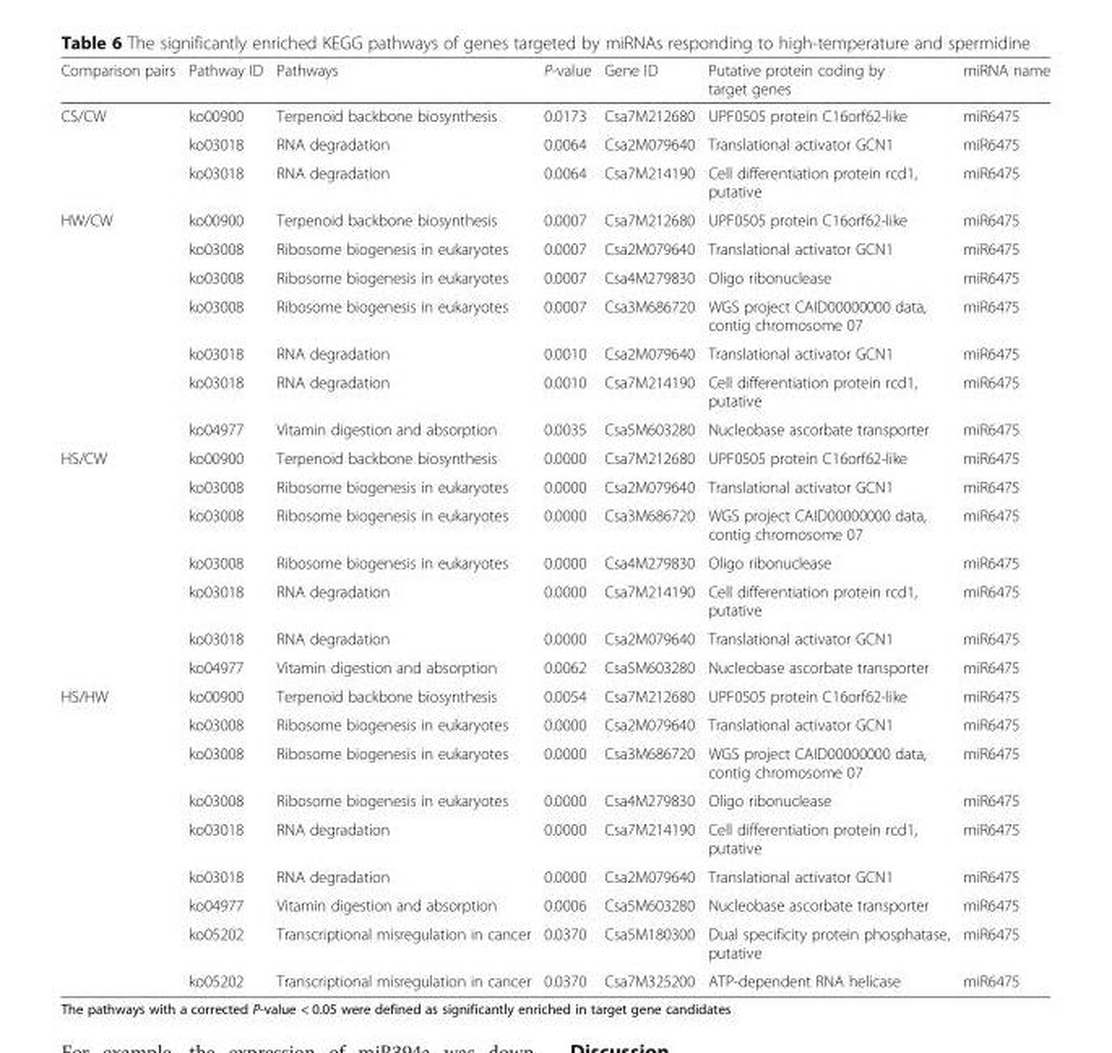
<table><thead><tr><td>Comparison pairs</td><td>Pathway ID</td><td>Pathways</td><td>P-value</td><td>Gene ID</td><td>Putative protein coding by target genes</td><td>miRNA name</td></tr></thead><tbody><tr><td rowspan="3">CS/CW</td><td>ko00900</td><td>Terpenoid backbone biosynthesis</td><td>0.0173</td><td>Csa7M212680</td><td>UPF0505 protein C16orf62-like</td><td>miR6475</td></tr><tr><td>ko03018</td><td>RNA degradation</td><td>0.0064</td><td>Csa2M079640</td><td>Translational activator GCN1</td><td>miR6475</td></tr><tr><td>ko03018</td><td>RNA degradation</td><td>0.0064</td><td>Csa7M214190</td><td>Cell differentiation protein rcd1, putative</td><td>miR6475</td></tr><tr><td rowspan="7">HW/CW</td><td>ko00900</td><td>Terpenoid backbone biosynthesis</td><td>0.0007</td><td>Csa7M212680</td><td>UPF0505 protein C16orf62-like</td><td>miR6475</td></tr><tr><td>ko03008</td><td>Ribosome biogenesis in eukaryotes</td><td>0.0007</td><td>Csa2M079640</td><td>Translational activator GCN1</td><td>miR6475</td></tr><tr><td>ko03008</td><td>Ribosome biogenesis in eukaryotes</td><td>0.0007</td><td>Csa4M279830</td><td>Oligo ribonuclease</td><td>miR6475</td></tr><tr><td>ko03008</td><td>Ribosome biogenesis in eukaryotes</td><td>0.0007</td><td>Csa3M686720</td><td>WGS project CAID00000000 data, contig chromosome 07</td><td>miR6475</td></tr><tr><td>ko03018</td><td>RNA degradation</td><td>0.0010</td><td>Csa2M079640</td><td>Translational activator GCN1</td><td>miR6475</td></tr><tr><td>ko03018</td><td>RNA degradation</td><td>0.0010</td><td>Csa7M214190</td><td>Cell differentiation protein rcd1, putative</td><td>miR6475</td></tr><tr><td>ko04977</td><td>Vitamin digestion and absorption</td><td>0.0035</td><td>Csa5M603280</td><td>Nucleobase ascorbate transporter</td><td>miR6475</td></tr><tr><td rowspan="7">HS/CW</td><td>ko00900</td><td>Terpenoid backbone biosynthesis</td><td>0.0000</td><td>Csa7M212680</td><td>UPF0505 protein C16orf62-like</td><td>miR6475</td></tr><tr><td>ko03008</td><td>Ribosome biogenesis in eukaryotes</td><td>0.0000</td><td>Csa2M079640</td><td>Translational activator GCN1</td><td>miR6475</td></tr><tr><td>ko03008</td><td>Ribosome biogenesis in eukaryotes</td><td>0.0000</td><td>Csa3M686720</td><td>WGS project CAID00000000 data, contig chromosome 07</td><td>miR6475</td></tr><tr><td>ko03008</td><td>Ribosome biogenesis in eukaryotes</td><td>0.0000</td><td>Csa4M279830</td><td>Oligo ribonuclease</td><td>miR6475</td></tr><tr><td>ko03018</td><td>RNA degradation</td><td>0.0000</td><td>Csa7M214190</td><td>Cell differentiation protein rcd1, putative</td><td>miR6475</td></tr><tr><td>ko03018</td><td>RNA degradation</td><td>0.0000</td><td>Csa2M079640</td><td>Translational activator GCN1</td><td>miR6475</td></tr><tr><td>ko04977</td><td>Vitamin digestion and absorption</td><td>0.0062</td><td>Csa5M603280</td><td>Nucleobase ascorbate transporter</td><td>miR6475</td></tr><tr><td rowspan="9">HS/HW</td><td>ko00900</td><td>Terpenoid backbone biosynthesis</td><td>0.0054</td><td>Csa7M212680</td><td>UPF0505 protein C16orf62-like</td><td>miR6475</td></tr><tr><td>ko03008</td><td>Ribosome biogenesis in eukaryotes</td><td>0.0000</td><td>Csa2M079640</td><td>Translational activator GCN1</td><td>miR6475</td></tr><tr><td>ko03008</td><td>Ribosome biogenesis in eukaryotes</td><td>0.0000</td><td>Csa3M686720</td><td>WGS project CAID00000000 data, contig chromosome 07</td><td>miR6475</td></tr><tr><td>ko03008</td><td>Ribosome biogenesis in eukaryotes</td><td>0.0000</td><td>Csa4M279830</td><td>Oligo ribonuclease</td><td>miR6475</td></tr><tr><td>ko03018</td><td>RNA degradation</td><td>0.0000</td><td>Csa7M214190</td><td>Cell differentiation protein rcd1, putative</td><td>miR6475</td></tr><tr><td>ko03018</td><td>RNA degradation</td><td>0.0000</td><td>Csa2M079640</td><td>Translational activator GCN1</td><td>miR6475</td></tr><tr><td>ko04977</td><td>Vitamin digestion and absorption</td><td>0.0006</td><td>Csa5M603280</td><td>Nucleobase ascorbate transporter</td><td>miR6475</td></tr><tr><td>ko05202</td><td>Transcriptional misregulation in cancer</td><td>0.0370</td><td>Csa5M180300</td><td>Dual specificity protein phosphatase, putative</td><td>miR6475</td></tr><tr><td>ko05202</td><td>Transcriptional misregulation in cancer</td><td>0.0370</td><td>Csa7M325200</td><td>ATP-dependent RNA helicase</td><td>miR6475</td></tr></tbody></table>